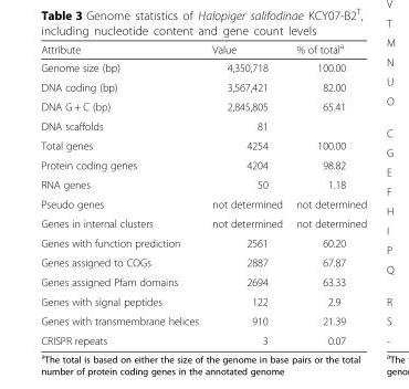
<table><thead><tr><td>Attribute</td><td>Value</td><td>% of total<sup>a</sup></td></tr></thead><tbody><tr><td>Genome size (bp)</td><td>4,350,718</td><td>100.00</td></tr><tr><td>DNA coding (bp)</td><td>3,567,421</td><td>82.00</td></tr><tr><td>DNA G + C (bp)</td><td>2,845,805</td><td>65.41</td></tr><tr><td>DNA scaffolds</td><td>81</td><td></td></tr><tr><td>Total genes</td><td>4254</td><td>100.00</td></tr><tr><td>Protein coding genes</td><td>4204</td><td>98.82</td></tr><tr><td>RNA genes</td><td>50</td><td>1.18</td></tr><tr><td>Pseudo genes</td><td>not determined</td><td>not determined</td></tr><tr><td>Genes in internal clusters</td><td>not determined</td><td>not determined</td></tr><tr><td>Genes with function prediction</td><td>2561</td><td>60.20</td></tr><tr><td>Genes assigned to COGs</td><td>2887</td><td>67.87</td></tr><tr><td>Genes assigned Pfam domains</td><td>2694</td><td>63.33</td></tr><tr><td>Genes with signal peptides</td><td>122</td><td>2.9</td></tr><tr><td>Genes with transmembrane helices</td><td>910</td><td>21.39</td></tr><tr><td>CRISPR repeats</td><td>3</td><td>0.07</td></tr></tbody></table>